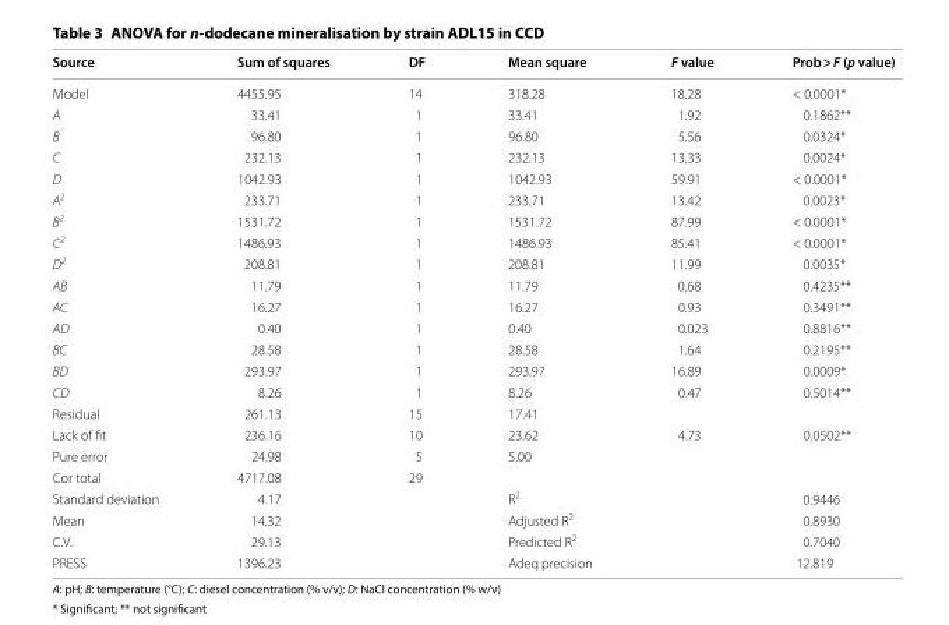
<table><thead><tr><td>Source</td><td>Sum of squares</td><td>DF</td><td>Mean square</td><td>F value</td><td>Prob &gt; F (p value)</td></tr></thead><tbody><tr><td>Model</td><td>4455.95</td><td>14</td><td>318.28</td><td>18.28</td><td>&lt; 0.0001*</td></tr><tr><td>A</td><td>33.41</td><td>1</td><td>33.41</td><td>1.92</td><td>0.1862**</td></tr><tr><td>B</td><td>96.80</td><td>1</td><td>96.80</td><td>5.56</td><td>0.0324*</td></tr><tr><td>C</td><td>232.13</td><td>1</td><td>232.13</td><td>13.33</td><td>0.0024*</td></tr><tr><td>D</td><td>1042.93</td><td>1</td><td>1042.93</td><td>59.91</td><td>&lt; 0.0001*</td></tr><tr><td>A<sup>2</sup></td><td>233.71</td><td>1</td><td>233.71</td><td>13.42</td><td>0.0023*</td></tr><tr><td>B<sup>2</sup></td><td>1531.72</td><td>1</td><td>1531.72</td><td>87.99</td><td>&lt; 0.0001*</td></tr><tr><td>C<sup>2</sup></td><td>1486.93</td><td>1</td><td>1486.93</td><td>85.41</td><td>&lt; 0.0001*</td></tr><tr><td>D<sup>2</sup></td><td>208.81</td><td>1</td><td>208.81</td><td>11.99</td><td>0.0035*</td></tr><tr><td>AB</td><td>11.79</td><td>1</td><td>11.79</td><td>0.68</td><td>0.4235**</td></tr><tr><td>AC</td><td>16.27</td><td>1</td><td>16.27</td><td>0.93</td><td>0.3491**</td></tr><tr><td>AD</td><td>0.40</td><td>1</td><td>0.40</td><td>0.023</td><td>0.8816**</td></tr><tr><td>BC</td><td>28.58</td><td>1</td><td>28.58</td><td>1.64</td><td>0.2195**</td></tr><tr><td>BD</td><td>293.97</td><td>1</td><td>293.97</td><td>16.89</td><td>0.0009*</td></tr><tr><td>CD</td><td>8.26</td><td>1</td><td>8.26</td><td>0.47</td><td>0.5014**</td></tr><tr><td>Residual</td><td>261.13</td><td>15</td><td>17.41</td><td></td><td></td></tr><tr><td>Lack of fit</td><td>236.16</td><td>10</td><td>23.62</td><td>4.73</td><td>0.0502**</td></tr><tr><td>Pure error</td><td>24.98</td><td>5</td><td>5.00</td><td></td><td></td></tr><tr><td>Cor total</td><td>4717.08</td><td>29</td><td></td><td></td><td></td></tr><tr><td>Standard deviation</td><td>4.17</td><td></td><td colspan="2">R<sup>2</sup></td><td>0.9446</td></tr><tr><td>Mean</td><td>14.32</td><td></td><td colspan="2">Adjusted R<sup>2</sup></td><td>0.8930</td></tr><tr><td>C.V.</td><td>29.13</td><td></td><td colspan="2">Predicted R<sup>2</sup></td><td>0.7040</td></tr><tr><td>PRESS</td><td>1396.23</td><td></td><td colspan="2">Adeq precision</td><td>12.819</td></tr></tbody></table>